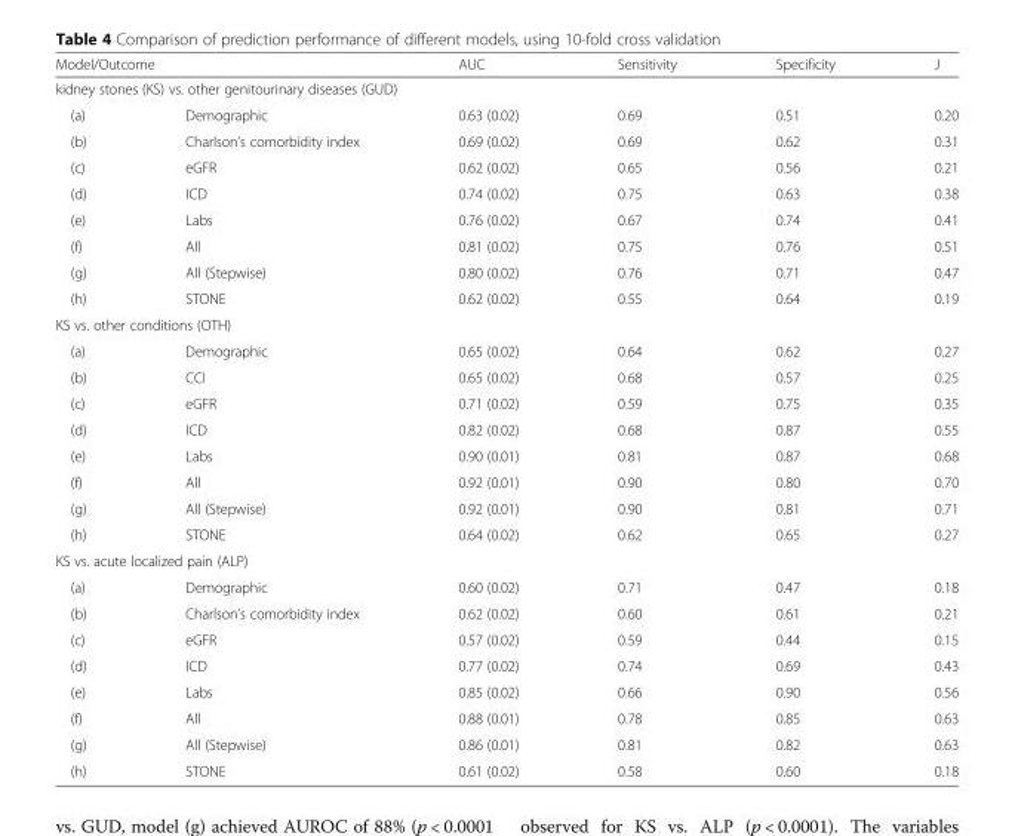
<table><thead><tr><td colspan="2">Model/Outcome</td><td>AUC</td><td>Sensitivity</td><td>Specificity</td><td>J</td></tr><tr><td colspan="6">kidney stones (KS) vs. other genitourinary diseases (GUD)</td></tr><tr><td>(a)</td><td>Demographic</td><td>0.63 (0.02)</td><td>0.69</td><td>0.51</td><td>0.20</td></tr></thead><tbody><tr><td>(b)</td><td>Charlson’s comorbidity index</td><td>0.69 (0.02)</td><td>0.69</td><td>0.62</td><td>0.31</td></tr><tr><td>(c)</td><td>eGFR</td><td>0.62 (0.02)</td><td>0.65</td><td>0.56</td><td>0.21</td></tr><tr><td>(d)</td><td>ICD</td><td>0.74 (0.02)</td><td>0.75</td><td>0.63</td><td>0.38</td></tr><tr><td>(e)</td><td>Labs</td><td>0.76 (0.02)</td><td>0.67</td><td>0.74</td><td>0.41</td></tr><tr><td>(f)</td><td>All</td><td>0.81 (0.02)</td><td>0.75</td><td>0.76</td><td>0.51</td></tr><tr><td>(g)</td><td>All (Stepwise)</td><td>0.80 (0.02)</td><td>0.76</td><td>0.71</td><td>0.47</td></tr><tr><td>(h)</td><td>STONE</td><td>0.62 (0.02)</td><td>0.55</td><td>0.64</td><td>0.19</td></tr><tr><td colspan="6">KS vs. other conditions (OTH)</td></tr><tr><td>(a)</td><td>Demographic</td><td>0.65 (0.02)</td><td>0.64</td><td>0.62</td><td>0.27</td></tr><tr><td>(b)</td><td>CCI</td><td>0.65 (0.02)</td><td>0.68</td><td>0.57</td><td>0.25</td></tr><tr><td>(c)</td><td>eGFR</td><td>0.71 (0.02)</td><td>0.59</td><td>0.75</td><td>0.35</td></tr><tr><td>(d)</td><td>ICD</td><td>0.82 (0.02)</td><td>0.68</td><td>0.87</td><td>0.55</td></tr><tr><td>(e)</td><td>Labs</td><td>0.90 (0.01)</td><td>0.81</td><td>0.87</td><td>0.68</td></tr><tr><td>(f)</td><td>All</td><td>0.92 (0.01)</td><td>0.90</td><td>0.80</td><td>0.70</td></tr><tr><td>(g)</td><td>All (Stepwise)</td><td>0.92 (0.01)</td><td>0.90</td><td>0.81</td><td>0.71</td></tr><tr><td>(h)</td><td>STONE</td><td>0.64 (0.02)</td><td>0.62</td><td>0.65</td><td>0.27</td></tr><tr><td colspan="6">KS vs. acute localized pain (ALP)</td></tr><tr><td>(a)</td><td>Demographic</td><td>0.60 (0.02)</td><td>0.71</td><td>0.47</td><td>0.18</td></tr><tr><td>(b)</td><td>Charlson’s comorbidity index</td><td>0.62 (0.02)</td><td>0.60</td><td>0.61</td><td>0.21</td></tr><tr><td>(c)</td><td>eGFR</td><td>0.57 (0.02)</td><td>0.59</td><td>0.44</td><td>0.15</td></tr><tr><td>(d)</td><td>ICD</td><td>0.77 (0.02)</td><td>0.74</td><td>0.69</td><td>0.43</td></tr><tr><td>(e)</td><td>Labs</td><td>0.85 (0.02)</td><td>0.66</td><td>0.90</td><td>0.56</td></tr><tr><td>(f)</td><td>All</td><td>0.88 (0.01)</td><td>0.78</td><td>0.85</td><td>0.63</td></tr><tr><td>(g)</td><td>All (Stepwise)</td><td>0.86 (0.01)</td><td>0.81</td><td>0.82</td><td>0.63</td></tr><tr><td>(h)</td><td>STONE</td><td>0.61 (0.02)</td><td>0.58</td><td>0.60</td><td>0.18</td></tr></tbody></table>